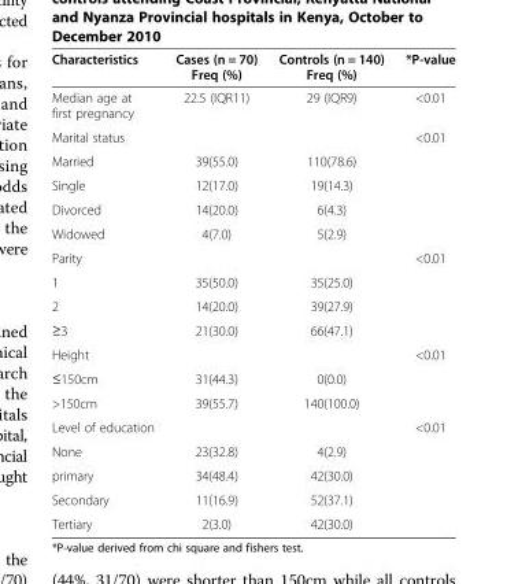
<table><thead><tr><td>Characteristics</td><td>Cases (n = 70) Freq (%)</td><td>Controls (n = 140) Freq (%)</td><td>*P-value</td></tr></thead><tbody><tr><td>Median age at first pregnancy</td><td>22.5 (IQR11)</td><td>29 (IQR9)</td><td>&lt;0.01</td></tr><tr><td>Marital status</td><td></td><td></td><td>&lt;0.01</td></tr><tr><td>Married</td><td>39(55.0)</td><td>110(78.6)</td><td></td></tr><tr><td>Single</td><td>12(17.0)</td><td>19(14.3)</td><td></td></tr><tr><td>Divorced</td><td>14(20.0)</td><td>6(4.3)</td><td></td></tr><tr><td>Widowed</td><td>4(7.0)</td><td>5(2.9)</td><td></td></tr><tr><td>Parity</td><td></td><td></td><td>&lt;0.01</td></tr><tr><td>1</td><td>35(50.0)</td><td>35(25.0)</td><td></td></tr><tr><td>2</td><td>14(20.0)</td><td>39(27.9)</td><td></td></tr><tr><td>≥3</td><td>21(30.0)</td><td>66(47.1)</td><td></td></tr><tr><td>Height</td><td></td><td></td><td>&lt;0.01</td></tr><tr><td>≤150cm</td><td>31(44.3)</td><td>0(0.0)</td><td></td></tr><tr><td>&gt;150cm</td><td>39(55.7)</td><td>140(100.0)</td><td></td></tr><tr><td>Level of education</td><td></td><td></td><td>&lt;0.01</td></tr><tr><td>None</td><td>23(32.8)</td><td>4(2.9)</td><td></td></tr><tr><td>primary</td><td>34(48.4)</td><td>42(30.0)</td><td></td></tr><tr><td>Secondary</td><td>11(16.9)</td><td>52(37.1)</td><td></td></tr><tr><td>Tertiary</td><td>2(3.0)</td><td>42(30.0)</td><td></td></tr></tbody></table>